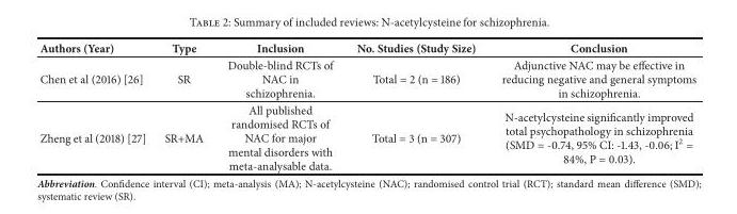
<table><thead><tr><td>Authors (Year)</td><td>Type</td><td>Inclusion</td><td>No. Studies (Study Size)</td><td>Conclusion</td></tr></thead><tbody><tr><td>Chen et al (2016) [26]</td><td>SR</td><td>Double-blind RCTs of NAC in schizophrenia.</td><td>Total = 2 (n = 186)</td><td>Adjunctive NAC may be effective in reducing negative and general symptoms in schizophrenia.</td></tr><tr><td>Zheng et al (2018) [27]</td><td>SR+MA</td><td>All published randomised RCTs of NAC for major mental disorders with meta-analysable data.</td><td>Total = 3 (n = 307)</td><td>N-acetylcysteine significantly improved total psychopathology in schizophrenia (SMD = -0.74, 95% CI: -1.43, -0.06; I<sup>2</sup> = 84%, P = 0.03).</td></tr></tbody></table>